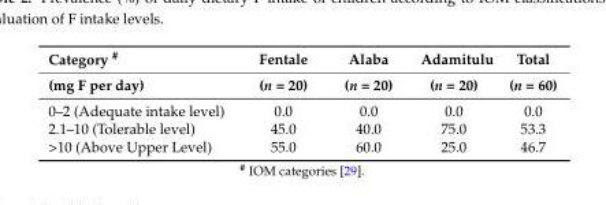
<table><thead><tr><td rowspan="2">Category <sup>#</sup> (mg F per day)</td><td rowspan="2">Fentale (n = 20)</td><td rowspan="2">Alaba (n = 20)</td><td rowspan="2">Adamitulu (n = 20)</td><td rowspan="2">Total (n = 60)</td></tr><tr></tr></thead><tbody><tr><td>0–2 (Adequate intake level)</td><td>0.0</td><td>0.0</td><td>0.0</td><td>0.0</td></tr><tr><td>2.1–10 (Tolerable level)</td><td>45.0</td><td>40.0</td><td>75.0</td><td>53.3</td></tr><tr><td>&gt;10 (Above Upper Level)</td><td>55.0</td><td>60.0</td><td>25.0</td><td>46.7</td></tr></tbody></table>